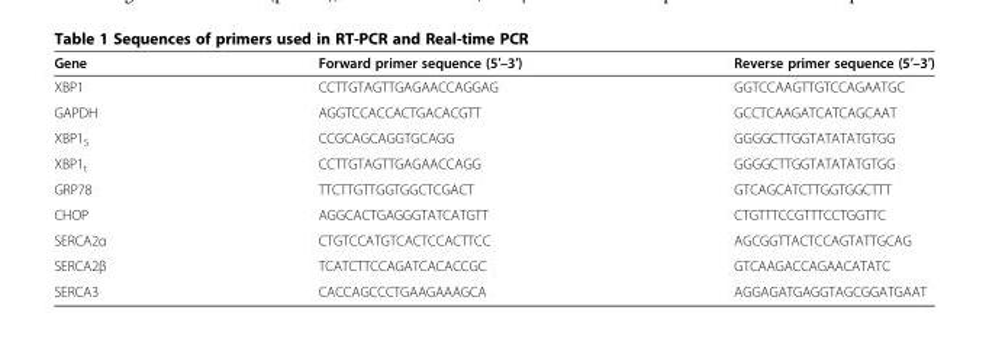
<table><thead><tr><td>Gene</td><td>Forward primer sequence (5′–3′)</td><td>Reverse primer sequence (5′–3′)</td></tr></thead><tbody><tr><td>XBP1</td><td>CCTTGTAGTTGAGAACCAGGAG</td><td>GGTCCAAGTTGTCCAGAATGC</td></tr><tr><td>GAPDH</td><td>AGGTCCACCACTGACACGTT</td><td>GCCTCAAGATCATCAGCAAT</td></tr><tr><td>XBP1<sub>S</sub></td><td>CCGCAGCAGGTGCAGG</td><td>GGGGCTTGGTATATATGTGG</td></tr><tr><td>XBP1<sub>t</sub></td><td>CCTTGTAGTTGAGAACCAGG</td><td>GGGGCTTGGTATATATGTGG</td></tr><tr><td>GRP78</td><td>TTCTTGTTGGTGGCTCGACT</td><td>GTCAGCATCTTGGTGGCTTT</td></tr><tr><td>CHOP</td><td>AGGCACTGAGGGTATCATGTT</td><td>CTGTTTCCGTTTCCTGGTTC</td></tr><tr><td>SERCA2α</td><td>CTGTCCATGTCACTCCACTTCC</td><td>AGCGGTTACTCCAGTATTGCAG</td></tr><tr><td>SERCA2β</td><td>TCATCTTCCAGATCACACCGC</td><td>GTCAAGACCAGAACATATC</td></tr><tr><td>SERCA3</td><td>CACCAGCCCTGAAGAAAGCA</td><td>AGGAGATGAGGTAGCGGATGAAT</td></tr></tbody></table>